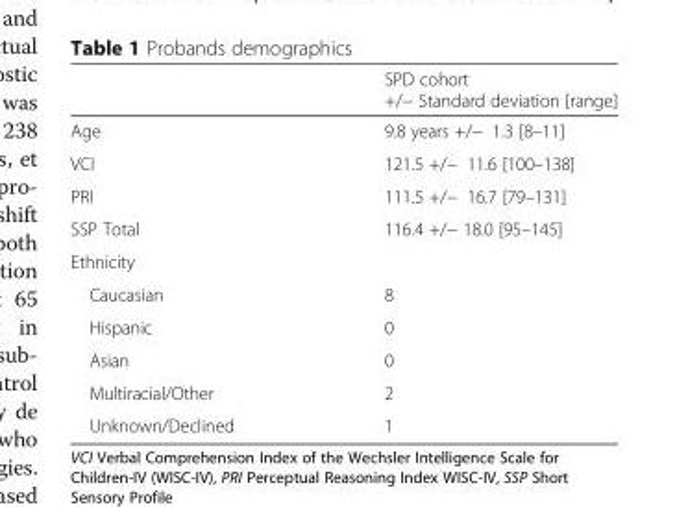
<table><thead><tr><td></td><td>SPD cohort +/− Standard deviation [range]</td></tr></thead><tbody><tr><td>Age</td><td>9.8 years +/− 1.3 [8–11]</td></tr><tr><td>VCI</td><td>121.5 +/− 11.6 [100–138]</td></tr><tr><td>PRI</td><td>111.5 +/− 16.7 [79–131]</td></tr><tr><td>SSP Total</td><td>116.4 +/− 18.0 [95–145]</td></tr><tr><td colspan="2">Ethnicity</td></tr><tr><td>Caucasian</td><td>8</td></tr><tr><td>Hispanic</td><td>0</td></tr><tr><td>Asian</td><td>0</td></tr><tr><td>Multiracial/Other</td><td>2</td></tr><tr><td>Unknown/Declined</td><td>1</td></tr></tbody></table>